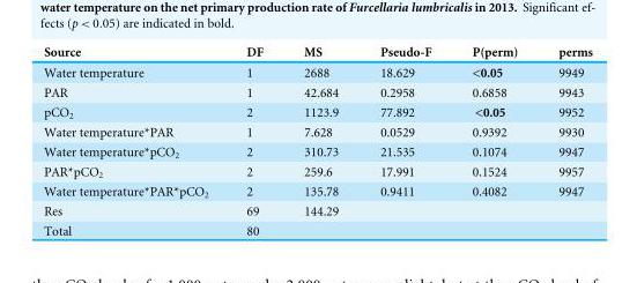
<table><thead><tr><td>Source</td><td>DF</td><td>MS</td><td>Pseudo-F</td><td>P(perm)</td><td>perms</td></tr></thead><tbody><tr><td>Water temperature</td><td>1</td><td>2688</td><td>18.629</td><td>&lt;0.05</td><td>9949</td></tr><tr><td>PAR</td><td>1</td><td>42.684</td><td>0.2958</td><td>0.6858</td><td>9943</td></tr><tr><td>pCO<sub>2</sub></td><td>2</td><td>1123.9</td><td>77.892</td><td>&lt;0.05</td><td>9952</td></tr><tr><td>Water temperature*PAR</td><td>1</td><td>7.628</td><td>0.0529</td><td>0.9392</td><td>9930</td></tr><tr><td>Water temperature*pCO<sub>2</sub></td><td>2</td><td>310.73</td><td>21.535</td><td>0.1074</td><td>9947</td></tr><tr><td>PAR*pCO<sub>2</sub></td><td>2</td><td>259.6</td><td>17.991</td><td>0.1524</td><td>9957</td></tr><tr><td>Water temperature*PAR*pCO<sub>2</sub></td><td>2</td><td>135.78</td><td>0.9411</td><td>0.4082</td><td>9947</td></tr><tr><td>Res</td><td>69</td><td>144.29</td><td></td><td></td><td></td></tr><tr><td>Total</td><td>80</td><td></td><td></td><td></td><td></td></tr></tbody></table>